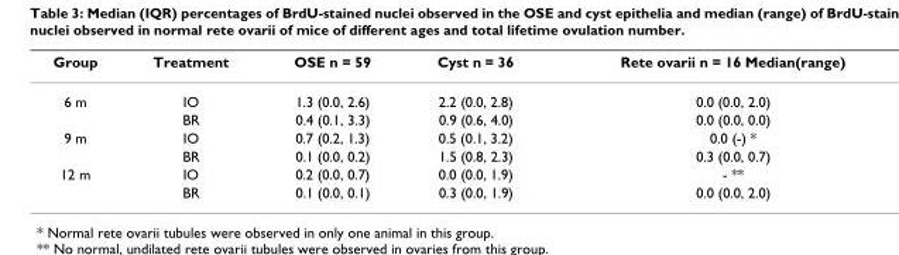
<table><thead><tr><td>Group</td><td>Treatment</td><td>OSE n = 59</td><td>Cyst n = 36</td><td>Rete ovarii n = 16 Median(range)</td></tr></thead><tbody><tr><td rowspan="2">6 m</td><td>IO</td><td>1.3 (0.0, 2.6)</td><td>2.2 (0.0, 2.8)</td><td>0.0 (0.0, 2.0)</td></tr><tr><td>BR</td><td>0.4 (0.1, 3.3)</td><td>0.9 (0.6, 4.0)</td><td>0.0 (0.0, 0.0)</td></tr><tr><td rowspan="2">9 m</td><td>IO</td><td>0.7 (0.2, 1.3)</td><td>0.5 (0.1, 3.2)</td><td>0.0 (-) *</td></tr><tr><td>BR</td><td>0.1 (0.0, 0.2)</td><td>1.5 (0.8, 2.3)</td><td>0.3 (0.0, 0.7)</td></tr><tr><td rowspan="2">12 m</td><td>IO</td><td>0.2 (0.0, 0.7)</td><td>0.0 (0.0, 1.9)</td><td>- **</td></tr><tr><td>BR</td><td>0.1 (0.0, 0.1)</td><td>0.3 (0.0, 1.9)</td><td>0.0 (0.0, 2.0)</td></tr></tbody></table>